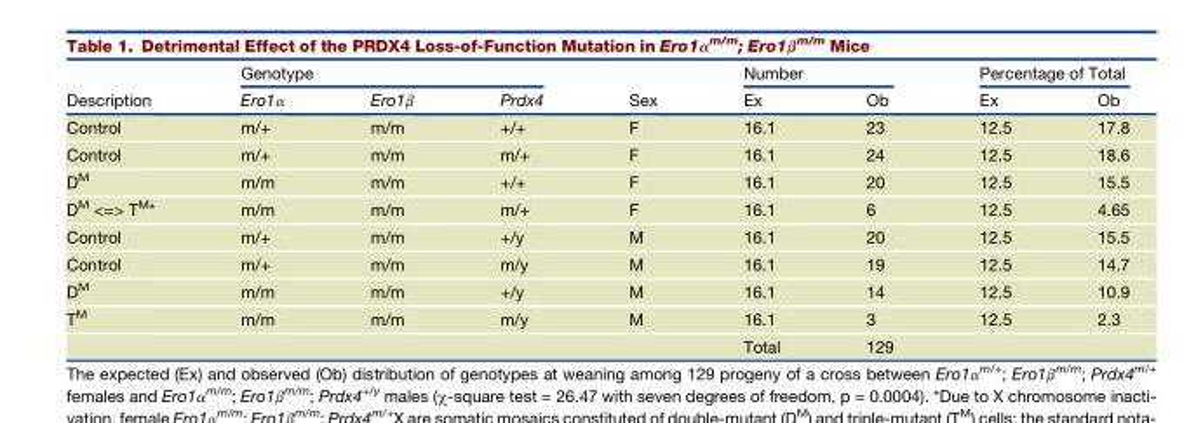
<table><thead><tr><td rowspan="2">Description</td><td colspan="3">Genotype</td><td rowspan="2">Sex</td><td colspan="2">Number</td><td colspan="2">Percentage of Total</td></tr><tr><td>Ero1α</td><td>Ero1β</td><td>Prdx4</td><td>Ex</td><td>Ob</td><td>Ex</td><td>Ob</td></tr></thead><tbody><tr><td>Control</td><td>m/+</td><td>m/m</td><td>+/+</td><td>F</td><td>16.1</td><td>23</td><td>12.5</td><td>17.8</td></tr><tr><td>Control</td><td>m/+</td><td>m/m</td><td>m/+</td><td>F</td><td>16.1</td><td>24</td><td>12.5</td><td>18.6</td></tr><tr><td>D<sup>M</sup></td><td>m/m</td><td>m/m</td><td>+/+</td><td>F</td><td>16.1</td><td>20</td><td>12.5</td><td>15.5</td></tr><tr><td>DM &lt;=&gt; TM*</td><td>m/m</td><td>m/m</td><td>m/+</td><td>F</td><td>16.1</td><td>6</td><td>12.5</td><td>4.65</td></tr><tr><td>Control</td><td>m/+</td><td>m/m</td><td>+/y</td><td>M</td><td>16.1</td><td>20</td><td>12.5</td><td>15.5</td></tr><tr><td>Control</td><td>m/+</td><td>m/m</td><td>m/y</td><td>M</td><td>16.1</td><td>19</td><td>12.5</td><td>14.7</td></tr><tr><td>D<sup>M</sup></td><td>m/m</td><td>m/m</td><td>+/y</td><td>M</td><td>16.1</td><td>14</td><td>12.5</td><td>10.9</td></tr><tr><td rowspan="2">T<sup>M</sup></td><td>m/m</td><td>m/m</td><td>m/y</td><td>M</td><td>16.1</td><td>3</td><td>12.5</td><td>2.3</td></tr><tr><td></td><td></td><td></td><td></td><td>Total</td><td>129</td><td></td><td></td></tr></tbody></table>